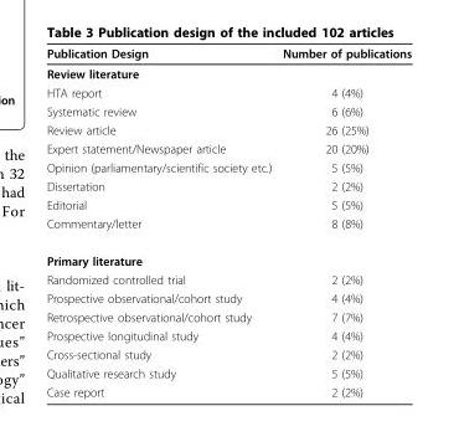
<table><thead><tr><td>Publication Design</td><td>Number of publications</td></tr></thead><tbody><tr><td colspan="2">Review literature</td></tr><tr><td>HTA report</td><td>4 (4%)</td></tr><tr><td>Systematic review</td><td>6 (6%)</td></tr><tr><td>Review article</td><td>26 (25%)</td></tr><tr><td>Expert statement/Newspaper article</td><td>20 (20%)</td></tr><tr><td>Opinion (parliamentary/scientific society etc.)</td><td>5 (5%)</td></tr><tr><td>Dissertation</td><td>2 (2%)</td></tr><tr><td>Editorial</td><td>5 (5%)</td></tr><tr><td>Commentary/letter</td><td>8 (8%)</td></tr><tr><td colspan="2">Primary literature</td></tr><tr><td>Randomized controlled trial</td><td>2 (2%)</td></tr><tr><td>Prospective observational/cohort study</td><td>4 (4%)</td></tr><tr><td>Retrospective observational/cohort study</td><td>7 (7%)</td></tr><tr><td>Prospective longitudinal study</td><td>4 (4%)</td></tr><tr><td>Cross-sectional study</td><td>2 (2%)</td></tr><tr><td>Qualitative research study</td><td>5 (5%)</td></tr><tr><td>Case report</td><td>2 (2%)</td></tr></tbody></table>